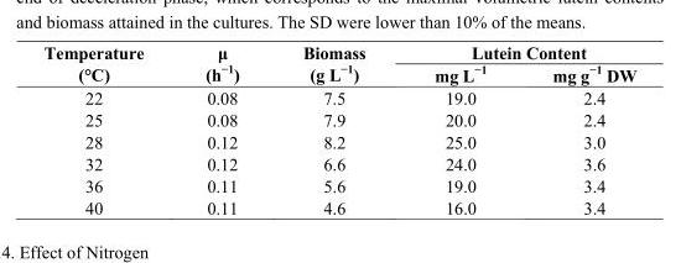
<table><thead><tr><td rowspan="2">Temperature (°C)</td><td rowspan="2">μ (h<sup>−1</sup>)</td><td rowspan="2">Biomass (g L<sup>−1</sup>)</td><td colspan="2">Lutein Content</td></tr><tr><td>mg L<sup>−1</sup></td><td>mg g<sup>−1</sup> DW</td></tr></thead><tbody><tr><td>22</td><td>0.08</td><td>7.5</td><td>19.0</td><td>2.4</td></tr><tr><td>25</td><td>0.08</td><td>7.9</td><td>20.0</td><td>2.4</td></tr><tr><td>28</td><td>0.12</td><td>8.2</td><td>25.0</td><td>3.0</td></tr><tr><td>32</td><td>0.12</td><td>6.6</td><td>24.0</td><td>3.6</td></tr><tr><td>36</td><td>0.11</td><td>5.6</td><td>19.0</td><td>3.4</td></tr><tr><td>40</td><td>0.11</td><td>4.6</td><td>16.0</td><td>3.4</td></tr></tbody></table>